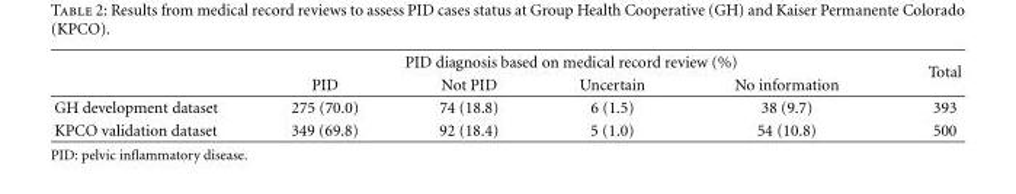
<table><thead><tr><td rowspan="2"></td><td colspan="4">PID diagnosis based on medical record review (%)</td><td rowspan="2">Total</td></tr><tr><td>PID</td><td>Not PID</td><td>Uncertain</td><td>No information</td></tr></thead><tbody><tr><td>GH development dataset</td><td>275 (70.0)</td><td>74 (18.8)</td><td>6 (1.5)</td><td>38 (9.7)</td><td>393</td></tr><tr><td>KPCO validation dataset</td><td>349 (69.8)</td><td>92 (18.4)</td><td>5 (1.0)</td><td>54 (10.8)</td><td>500</td></tr></tbody></table>